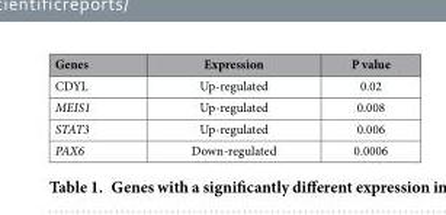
<table><thead><tr><td>Genes</td><td>Expression</td><td>P value</td></tr></thead><tbody><tr><td>CDYL</td><td>Up-regulated</td><td>0.02</td></tr><tr><td>MEIS1</td><td>Up-regulated</td><td>0.008</td></tr><tr><td>STAT3</td><td>Up-regulated</td><td>0.006</td></tr><tr><td>PAX6</td><td>Down-regulated</td><td>0.0006</td></tr></tbody></table>